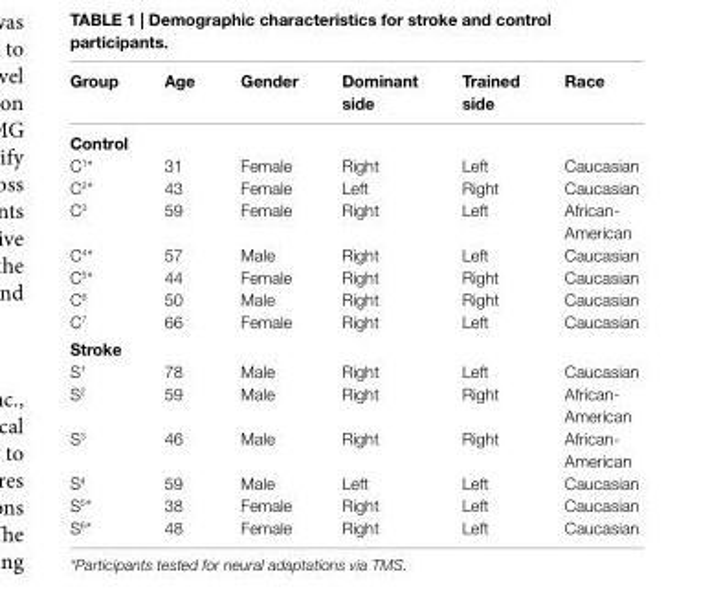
<table><thead><tr><td>group</td><td>age</td><td>gender</td><td>Dominant side</td><td>Trained side</td><td>race</td></tr></thead><tbody><tr><td colspan="6">control</td></tr><tr><td>C<sup>1</sup>*</td><td>31</td><td>Female</td><td>Right</td><td>Left</td><td>Caucasian</td></tr><tr><td>C<sup>2</sup>*</td><td>43</td><td>Female</td><td>Left</td><td>Right</td><td>Caucasian</td></tr><tr><td>C<sup>3</sup></td><td>59</td><td>Female</td><td>Right</td><td>Left</td><td>African- American</td></tr><tr><td>C<sup>4</sup>*</td><td>57</td><td>Male</td><td>Right</td><td>Left</td><td>Caucasian</td></tr><tr><td>C<sup>5</sup>*</td><td>44</td><td>Female</td><td>Right</td><td>Right</td><td>Caucasian</td></tr><tr><td>C<sup>6</sup></td><td>50</td><td>Male</td><td>Right</td><td>Right</td><td>Caucasian</td></tr><tr><td>C<sup>7</sup></td><td>66</td><td>Female</td><td>Right</td><td>Left</td><td>Caucasian</td></tr><tr><td colspan="6">stroke</td></tr><tr><td>S<sup>1</sup></td><td>78</td><td>Male</td><td>Right</td><td>Left</td><td>Caucasian</td></tr><tr><td>S<sup>2</sup></td><td>59</td><td>Male</td><td>Right</td><td>Right</td><td>African- American</td></tr><tr><td>S<sup>3</sup></td><td>46</td><td>Male</td><td>Right</td><td>Right</td><td>African- American</td></tr><tr><td>S<sup>4</sup></td><td>59</td><td>Male</td><td>Left</td><td>Left</td><td>Caucasian</td></tr><tr><td>S<sup>5</sup>*</td><td>38</td><td>Female</td><td>Right</td><td>Left</td><td>Caucasian</td></tr><tr><td>S<sup>6</sup>*</td><td>48</td><td>Female</td><td>Right</td><td>Left</td><td>Caucasian</td></tr></tbody></table>